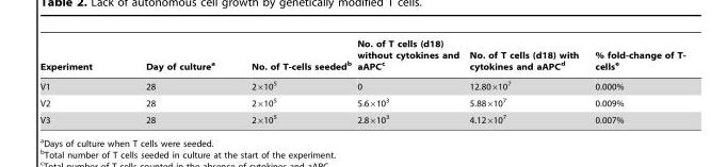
<table><thead><tr><td>Experiment</td><td>Day of culture<sup>a</sup></td><td>No. of T-cells seeded<sup>b</sup></td><td>No. of T cells (d18) without cytokines and aAPC<sup>c</sup></td><td>No. of T cells (d18) with cytokines and aAPC<sup>d</sup></td><td>% fold-change of T- cells<sup>e</sup></td></tr></thead><tbody><tr><td>V1</td><td>28</td><td>2×10<sup>5</sup></td><td>0</td><td>12.80×10<sup>7</sup></td><td>0.000%</td></tr><tr><td>V2</td><td>28</td><td>2×10<sup>5</sup></td><td>5.6×10<sup>3</sup></td><td>5.88×10<sup>7</sup></td><td>0.009%</td></tr><tr><td>V3</td><td>28</td><td>2×10<sup>5</sup></td><td>2.8×10<sup>3</sup></td><td>4.12×10<sup>7</sup></td><td>0.007%</td></tr></tbody></table>